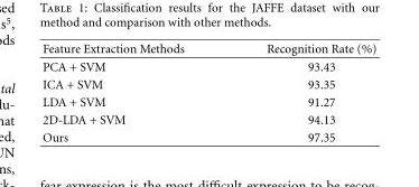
<table><thead><tr><td>Feature Extraction Methods</td><td>Recognition Rate (%)</td></tr></thead><tbody><tr><td>PCA + SVM</td><td>93.43</td></tr><tr><td>ICA + SVM</td><td>93.35</td></tr><tr><td>LDA + SVM</td><td>91.27</td></tr><tr><td>2D-LDA + SVM</td><td>94.13</td></tr><tr><td>Ours</td><td>97.35</td></tr></tbody></table>